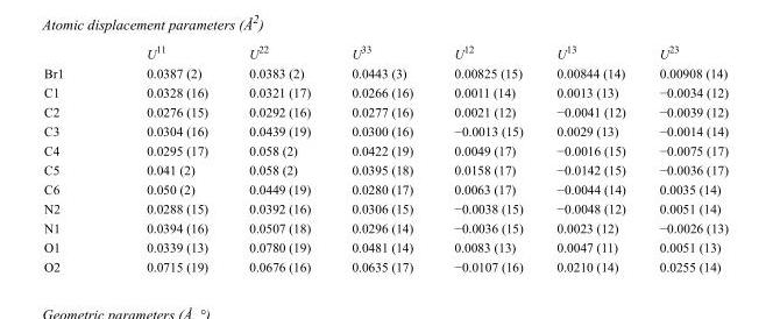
<table><thead><tr><td></td><td>U<sup>11</sup></td><td>U<sup>22</sup></td><td>U<sup>33</sup></td><td>U<sup>12</sup></td><td>U<sup>13</sup></td><td>U<sup>23</sup></td></tr></thead><tbody><tr><td>Br1</td><td>0.0387 (2)</td><td>0.0383 (2)</td><td>0.0443 (3)</td><td>0.00825 (15)</td><td>0.00844 (14)</td><td>0.00908 (14)</td></tr><tr><td>C1</td><td>0.0328 (16)</td><td>0.0321 (17)</td><td>0.0266 (16)</td><td>0.0011 (14)</td><td>0.0013 (13)</td><td>−0.0034 (12)</td></tr><tr><td>C2</td><td>0.0276 (15)</td><td>0.0292 (16)</td><td>0.0277 (16)</td><td>0.0021 (12)</td><td>−0.0041 (12)</td><td>−0.0039 (12)</td></tr><tr><td>C3</td><td>0.0304 (16)</td><td>0.0439 (19)</td><td>0.0300 (16)</td><td>−0.0013 (15)</td><td>0.0029 (13)</td><td>−0.0014 (14)</td></tr><tr><td>C4</td><td>0.0295 (17)</td><td>0.058 (2)</td><td>0.0422 (19)</td><td>0.0049 (17)</td><td>−0.0016 (15)</td><td>−0.0075 (17)</td></tr><tr><td>C5</td><td>0.041 (2)</td><td>0.058 (2)</td><td>0.0395 (18)</td><td>0.0158 (17)</td><td>−0.0142 (15)</td><td>−0.0036 (17)</td></tr><tr><td>C6</td><td>0.050 (2)</td><td>0.0449 (19)</td><td>0.0280 (17)</td><td>0.0063 (17)</td><td>−0.0044 (14)</td><td>0.0035 (14)</td></tr><tr><td>N2</td><td>0.0288 (15)</td><td>0.0392 (16)</td><td>0.0306 (15)</td><td>−0.0038 (15)</td><td>−0.0048 (12)</td><td>0.0051 (14)</td></tr><tr><td>N1</td><td>0.0394 (16)</td><td>0.0507 (18)</td><td>0.0296 (14)</td><td>−0.0036 (15)</td><td>0.0023 (12)</td><td>−0.0026 (13)</td></tr><tr><td>O1</td><td>0.0339 (13)</td><td>0.0780 (19)</td><td>0.0481 (14)</td><td>0.0083 (13)</td><td>0.0047 (11)</td><td>0.0051 (13)</td></tr><tr><td>O2</td><td>0.0715 (19)</td><td>0.0676 (16)</td><td>0.0635 (17)</td><td>−0.0107 (16)</td><td>0.0210 (14)</td><td>0.0255 (14)</td></tr></tbody></table>